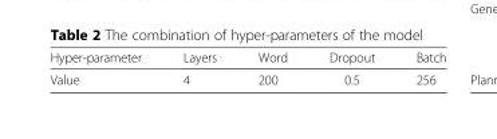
<table><thead><tr><td>Hyper-parameter</td><td>Layers</td><td>Word</td><td>Dropout</td><td>Batch</td></tr></thead><tbody><tr><td>Value</td><td>4</td><td>200</td><td>0.5</td><td>256</td></tr></tbody></table>